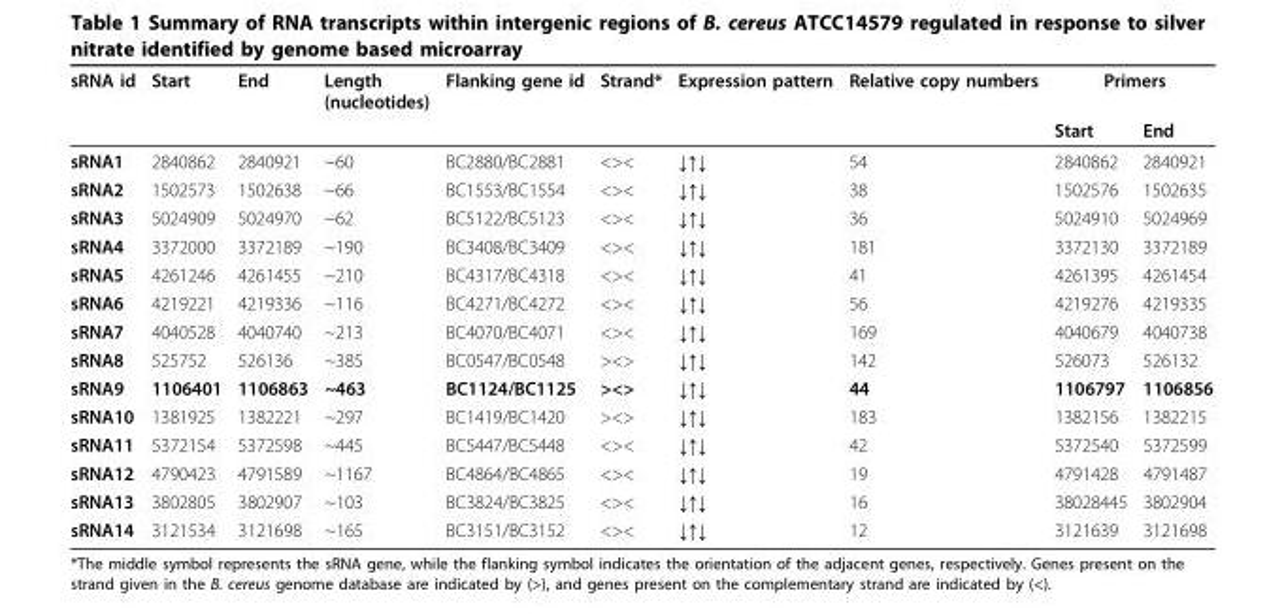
<table><thead><tr><td rowspan="2">sRNA id</td><td rowspan="2">Start</td><td rowspan="2">End</td><td rowspan="2">Length (nucleotides)</td><td rowspan="2">Flanking gene id</td><td rowspan="2">Strand*</td><td rowspan="2">Expression pattern</td><td rowspan="2">Relative copy numbers</td><td colspan="2">Primers</td></tr><tr><td>Start</td><td>End</td></tr></thead><tbody><tr><td>sRNA1</td><td>2840862</td><td>2840921</td><td>~60</td><td>BC2880/BC2881</td><td>&lt;&gt;&lt;</td><td>↓↑↓</td><td>54</td><td>2840862</td><td>2840921</td></tr><tr><td>sRNA2</td><td>1502573</td><td>1502638</td><td>~66</td><td>BC1553/BC1554</td><td>&lt;&gt;&lt;</td><td>↓↑↓</td><td>38</td><td>1502576</td><td>1502635</td></tr><tr><td>sRNA3</td><td>5024909</td><td>5024970</td><td>~62</td><td>BC5122/BC5123</td><td>&lt;&gt;&lt;</td><td>↓↑↓</td><td>36</td><td>5024910</td><td>5024969</td></tr><tr><td>sRNA4</td><td>3372000</td><td>3372189</td><td>~190</td><td>BC3408/BC3409</td><td>&lt;&gt;&lt;</td><td>↓↑↓</td><td>181</td><td>3372130</td><td>3372189</td></tr><tr><td>sRNA5</td><td>4261246</td><td>4261455</td><td>~210</td><td>BC4317/BC4318</td><td>&lt;&gt;&lt;</td><td>↓↑↓</td><td>41</td><td>4261395</td><td>4261454</td></tr><tr><td>sRNA6</td><td>4219221</td><td>4219336</td><td>~116</td><td>BC4271/BC4272</td><td>&lt;&gt;&lt;</td><td>↓↑↓</td><td>56</td><td>4219276</td><td>4219335</td></tr><tr><td>sRNA7</td><td>4040528</td><td>4040740</td><td>~213</td><td>BC4070/BC4071</td><td>&lt;&gt;&lt;</td><td>↓↑↓</td><td>169</td><td>4040679</td><td>4040738</td></tr><tr><td>sRNA8</td><td>525752</td><td>526136</td><td>~385</td><td>BC0547/BC0548</td><td>&gt;&lt;&gt;</td><td>↓↑↓</td><td>142</td><td>526073</td><td>526132</td></tr><tr><td>sRNA9</td><td>1106401</td><td>1106863</td><td>~463</td><td>BC1124/BC1125</td><td>&gt;&lt;&gt;</td><td>↓↑↓</td><td>44</td><td>1106797</td><td>1106856</td></tr><tr><td>sRNA10</td><td>1381925</td><td>1382221</td><td>~297</td><td>BC1419/BC1420</td><td>&gt;&lt;&gt;</td><td>↓↑↓</td><td>183</td><td>1382156</td><td>1382215</td></tr><tr><td>sRNA11</td><td>5372154</td><td>5372598</td><td>~445</td><td>BC5447/BC5448</td><td>&lt;&gt;&lt;</td><td>↓↑↓</td><td>42</td><td>5372540</td><td>5372599</td></tr><tr><td>sRNA12</td><td>4790423</td><td>4791589</td><td>~1167</td><td>BC4864/BC4865</td><td>&lt;&gt;&lt;</td><td>↓↑↓</td><td>19</td><td>4791428</td><td>4791487</td></tr><tr><td>sRNA13</td><td>3802805</td><td>3802907</td><td>~103</td><td>BC3824/BC3825</td><td>&lt;&gt;&lt;</td><td>↓↑↓</td><td>16</td><td>38028445</td><td>3802904</td></tr><tr><td>sRNA14</td><td>3121534</td><td>3121698</td><td>~165</td><td>BC3151/BC3152</td><td>&lt;&gt;&lt;</td><td>↓↑↓</td><td>12</td><td>3121639</td><td>3121698</td></tr></tbody></table>